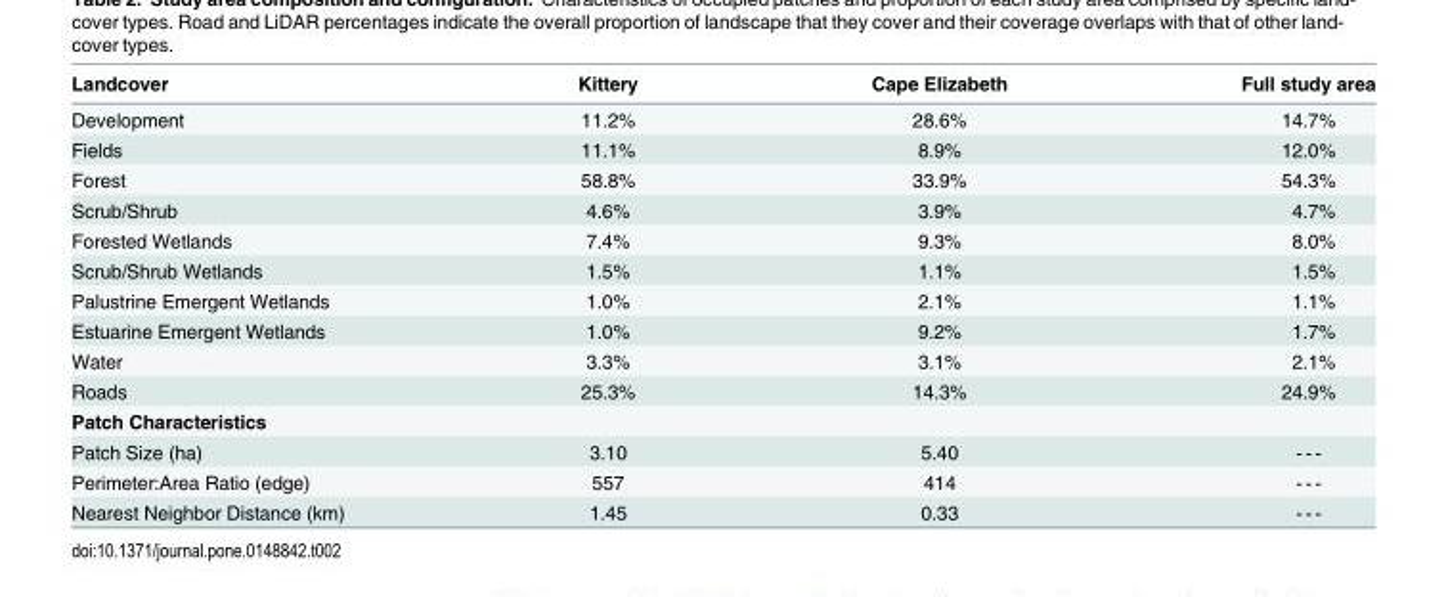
<table><thead><tr><td>Landcover</td><td>Kittery</td><td>Cape Elizabeth</td><td>Full study area</td></tr></thead><tbody><tr><td>Development</td><td>11.2%</td><td>28.6%</td><td>14.7%</td></tr><tr><td>Fields</td><td>11.1%</td><td>8.9%</td><td>12.0%</td></tr><tr><td>Forest</td><td>58.8%</td><td>33.9%</td><td>54.3%</td></tr><tr><td>Scrub/Shrub</td><td>4.6%</td><td>3.9%</td><td>4.7%</td></tr><tr><td>Forested Wetlands</td><td>7.4%</td><td>9.3%</td><td>8.0%</td></tr><tr><td>Scrub/Shrub Wetlands</td><td>1.5%</td><td>1.1%</td><td>1.5%</td></tr><tr><td>Palustrine Emergent Wetlands</td><td>1.0%</td><td>2.1%</td><td>1.1%</td></tr><tr><td>Estuarine Emergent Wetlands</td><td>1.0%</td><td>9.2%</td><td>1.7%</td></tr><tr><td>Water</td><td>3.3%</td><td>3.1%</td><td>2.1%</td></tr><tr><td>Roads</td><td>25.3%</td><td>14.3%</td><td>24.9%</td></tr><tr><td colspan="4">Patch Characteristics</td></tr><tr><td>Patch Size (ha)</td><td>3.10</td><td>5.40</td><td>- - -</td></tr><tr><td>Perimeter:Area Ratio (edge)</td><td>557</td><td>414</td><td>- - -</td></tr><tr><td>Nearest Neighbor Distance (km)</td><td>1.45</td><td>0.33</td><td>- - -</td></tr></tbody></table>